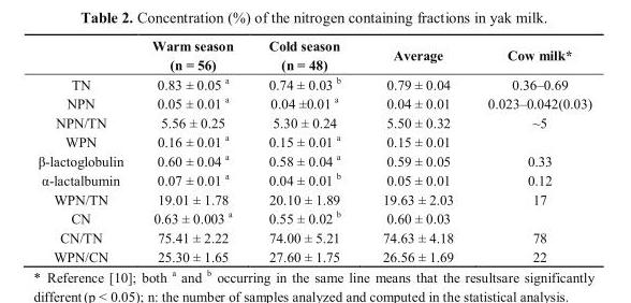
<table><thead><tr><td></td><td>Warm season (n = 56)</td><td>Cold season (n = 48)</td><td>Average</td><td>Cow milk*</td></tr></thead><tbody><tr><td>TN</td><td>0.83 ± 0.05 <sup>a</sup></td><td>0.74 ± 0.03 <sup>b</sup></td><td>0.79 ± 0.04</td><td>0.36–0.69</td></tr><tr><td>NPN</td><td>0.05 ± 0.01 <sup>a</sup></td><td>0.04 ±0.01 <sup>a</sup></td><td>0.04 ± 0.01</td><td>0.023–0.042(0.03)</td></tr><tr><td>NPN/TN</td><td>5.56 ± 0.25</td><td>5.30 ± 0.24</td><td>5.50 ± 0.32</td><td>~5</td></tr><tr><td>WPN</td><td>0.16 ± 0.01 <sup>a</sup></td><td>0.15 ± 0.01 <sup>a</sup></td><td>0.15 ± 0.01</td><td></td></tr><tr><td>β-lactoglobulin</td><td>0.60 ± 0.04 <sup>a</sup></td><td>0.58 ± 0.04 <sup>a</sup></td><td>0.59 ± 0.05</td><td>0.33</td></tr><tr><td>α-lactalbumin</td><td>0.07 ± 0.01 <sup>a</sup></td><td>0.04 ± 0.01 <sup>b</sup></td><td>0.05 ± 0.01</td><td>0.12</td></tr><tr><td>WPN/TN</td><td>19.01 ± 1.78</td><td>20.10 ± 1.89</td><td>19.63 ± 2.03</td><td>17</td></tr><tr><td>CN</td><td>0.63 ± 0.003 <sup>a</sup></td><td>0.55 ± 0.02 <sup>b</sup></td><td>0.60 ± 0.03</td><td></td></tr><tr><td>CN/TN</td><td>75.41 ± 2.22</td><td>74.00 ± 5.21</td><td>74.63 ± 4.18</td><td>78</td></tr><tr><td>WPN/CN</td><td>25.30 ± 1.65</td><td>27.60 ± 1.75</td><td>26.56 ± 1.69</td><td>22</td></tr></tbody></table>